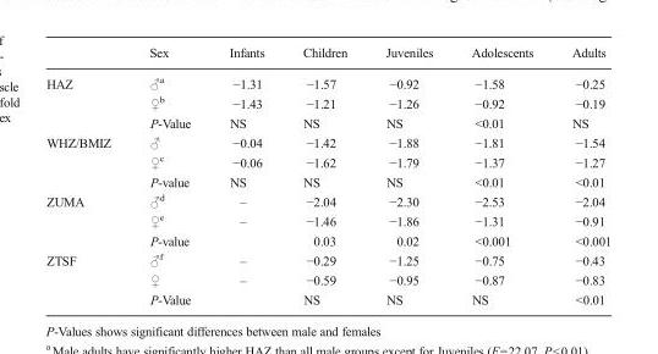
<table><thead><tr><td></td><td>Sex</td><td>Infants</td><td>Children</td><td>Juveniles</td><td>Adolescents</td><td>Adults</td></tr></thead><tbody><tr><td rowspan="3">HAZ</td><td>♂<sup>a</sup></td><td>−1.31</td><td>−1.57</td><td>−0.92</td><td>−1.58</td><td>−0.25</td></tr><tr><td>♀<sup>b</sup></td><td>−1.43</td><td>−1.21</td><td>−1.26</td><td>−0.92</td><td>−0.19</td></tr><tr><td>P-Value</td><td>NS</td><td>NS</td><td>NS</td><td>&lt;0.01</td><td>NS</td></tr><tr><td rowspan="3">WHZ/BMIZ</td><td>♂</td><td>−0.04</td><td>−1.42</td><td>−1.88</td><td>−1.81</td><td>−1.54</td></tr><tr><td>♀<sup>c</sup></td><td>−0.06</td><td>−1.62</td><td>−1.79</td><td>−1.37</td><td>−1.27</td></tr><tr><td>P-value</td><td>NS</td><td>NS</td><td>NS</td><td>&lt;0.01</td><td>&lt;0.01</td></tr><tr><td rowspan="3">ZUMA</td><td>♂<sup>d</sup></td><td>–</td><td>−2.04</td><td>−2.30</td><td>−2.53</td><td>−2.04</td></tr><tr><td>♀<sup>e</sup></td><td>–</td><td>−1.46</td><td>−1.86</td><td>−1.31</td><td>−0.91</td></tr><tr><td>P-value</td><td></td><td>0.03</td><td>0.02</td><td>&lt;0.001</td><td>&lt;0.001</td></tr><tr><td rowspan="3">ZTSF</td><td>♂<sup>f</sup></td><td>–</td><td>−0.29</td><td>−1.25</td><td>−0.75</td><td>−0.43</td></tr><tr><td>♀</td><td>–</td><td>−0.59</td><td>−0.95</td><td>−0.87</td><td>−0.83</td></tr><tr><td>P-Value</td><td></td><td>NS</td><td>NS</td><td>NS</td><td>&lt;0.01</td></tr></tbody></table>